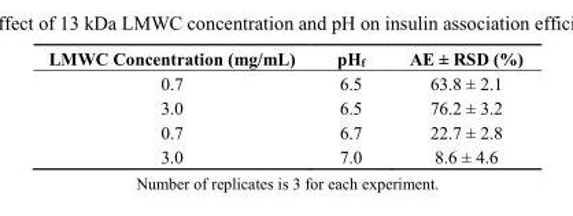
<table><thead><tr><td>LMWC Concentration (mg/mL)</td><td>pH<sub>f</sub></td><td>AE ± RSD (%)</td></tr></thead><tbody><tr><td>0.7</td><td>6.5</td><td>63.8 ± 2.1</td></tr><tr><td>3.0</td><td>6.5</td><td>76.2 ± 3.2</td></tr><tr><td>0.7</td><td>6.7</td><td>22.7 ± 2.8</td></tr><tr><td>3.0</td><td>7.0</td><td>8.6 ± 4.6</td></tr></tbody></table>